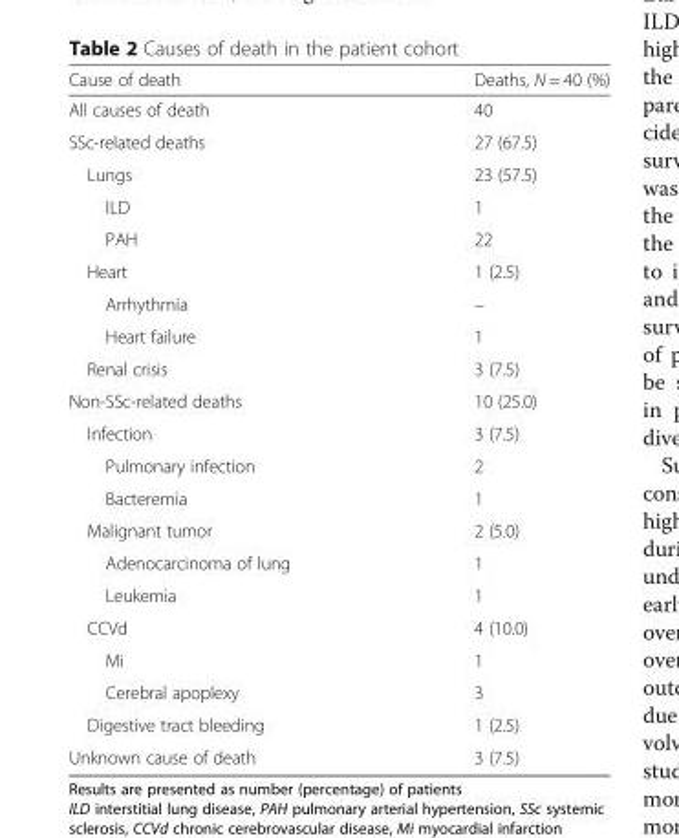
<table><thead><tr><td>Cause of death</td><td>Deaths, N = 40 (%)</td></tr></thead><tbody><tr><td>All causes of death</td><td>40</td></tr><tr><td>SSc-related deaths</td><td>27 (67.5)</td></tr><tr><td>Lungs</td><td>23 (57.5)</td></tr><tr><td>ILD</td><td>1</td></tr><tr><td>PAH</td><td>22</td></tr><tr><td>Heart</td><td>1 (2.5)</td></tr><tr><td>Arrhythmia</td><td>–</td></tr><tr><td>Heart failure</td><td>1</td></tr><tr><td>Renal crisis</td><td>3 (7.5)</td></tr><tr><td>Non-SSc-related deaths</td><td>10 (25.0)</td></tr><tr><td>Infection</td><td>3 (7.5)</td></tr><tr><td>Pulmonary infection</td><td>2</td></tr><tr><td>Bacteremia</td><td>1</td></tr><tr><td>Malignant tumor</td><td>2 (5.0)</td></tr><tr><td>Adenocarcinoma of lung</td><td>1</td></tr><tr><td>Leukemia</td><td>1</td></tr><tr><td>CCVd</td><td>4 (10.0)</td></tr><tr><td>Mi</td><td>1</td></tr><tr><td>Cerebral apoplexy</td><td>3</td></tr><tr><td>Digestive tract bleeding</td><td>1 (2.5)</td></tr><tr><td>Unknown cause of death</td><td>3 (7.5)</td></tr></tbody></table>